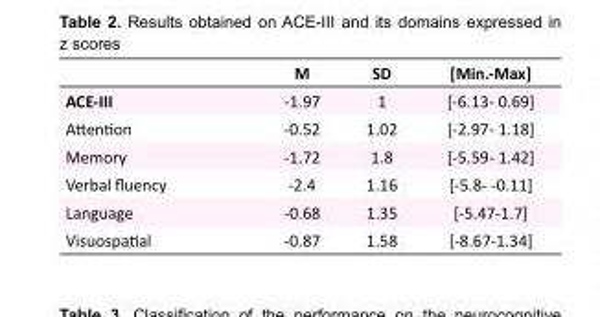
<table><thead><tr><td></td><td>M</td><td>SD</td><td>[Min.-Max]</td></tr></thead><tbody><tr><td>ACE-III</td><td>-1.97</td><td>1</td><td>[-6.13- 0.69]</td></tr><tr><td>Attention</td><td>-0.52</td><td>1.02</td><td>[-2.97- 1.18]</td></tr><tr><td>Memory</td><td>-1.72</td><td>1.8</td><td>[-5.59- 1.42]</td></tr><tr><td>Verbal fluency</td><td>-2.4</td><td>1.16</td><td>[-5.8- -0.11]</td></tr><tr><td>Language</td><td>-0.68</td><td>1.35</td><td>[-5.47-1.7]</td></tr><tr><td>Visuospatial</td><td>-0.87</td><td>1.58</td><td>[-8.67-1.34]</td></tr></tbody></table>